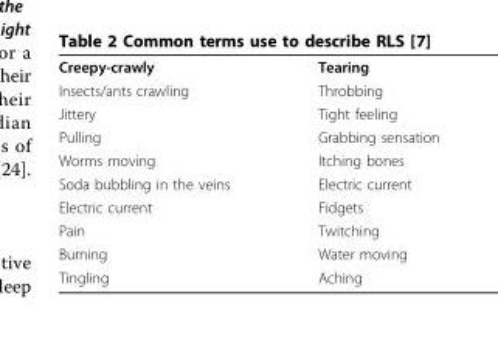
<table><tbody><tr><td>Creepy-crawly</td><td>Tearing</td></tr><tr><td>Insects/ants crawling</td><td>Throbbing</td></tr><tr><td>Jittery</td><td>Tight feeling</td></tr><tr><td>Pulling</td><td>Grabbing sensation</td></tr><tr><td>Worms moving</td><td>Itching bones</td></tr><tr><td>Soda bubbling in the veins</td><td>Electric current</td></tr><tr><td>Electric current</td><td>Fidgets</td></tr><tr><td>Pain</td><td>Twitching</td></tr><tr><td>Burning</td><td>Water moving</td></tr><tr><td>Tingling</td><td>Aching</td></tr></tbody></table>